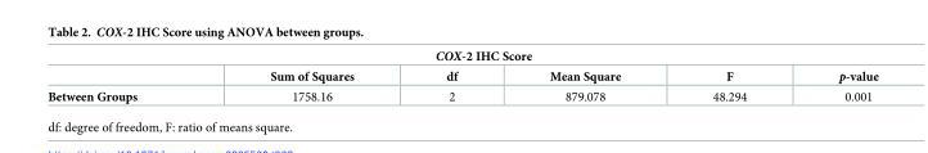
<table><thead><tr><td colspan="6">COX-2 IHC Score</td></tr><tr><td></td><td>Sum of Squares</td><td>df</td><td>Mean Square</td><td>F</td><td>p-value</td></tr></thead><tbody><tr><td>Between Groups</td><td>1758.16</td><td>2</td><td>879.078</td><td>48.294</td><td>0.001</td></tr></tbody></table>